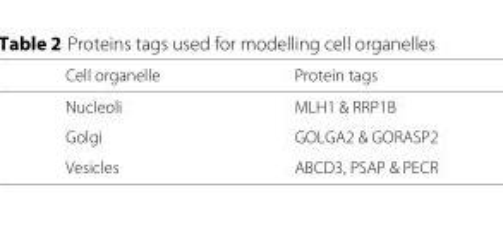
<table><thead><tr><td>Cell organelle</td><td>Protein tags</td></tr></thead><tbody><tr><td>Nucleoli</td><td>MLH1 &amp; RRP1B</td></tr><tr><td>Golgi</td><td>GOLGA2 &amp; GORASP2</td></tr><tr><td>Vesicles</td><td>ABCD3, PSAP &amp; PECR</td></tr></tbody></table>